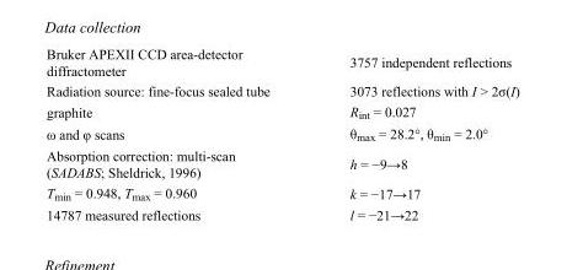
<table><tbody><tr><td>Bruker APEXII CCD area-detector diffractometer</td><td>3757 independent reflections</td></tr><tr><td>Radiation source: fine-focus sealed tube</td><td>3073 reflections with I &gt; 2σ(I)</td></tr><tr><td>graphite</td><td>R<sub>int</sub> = 0.027</td></tr><tr><td>ω and φ scans</td><td>θ<sub>max</sub> = 28.2°, θ<sub>min</sub> = 2.0°</td></tr><tr><td>Absorption correction: multi-scan (SADABS; Sheldrick, 1996)</td><td>h = −9→8</td></tr><tr><td>T<sub>min</sub> = 0.948, T<sub>max</sub> = 0.960</td><td>k = −17→17</td></tr><tr><td>14787 measured reflections</td><td>l = −21→22</td></tr></tbody></table>